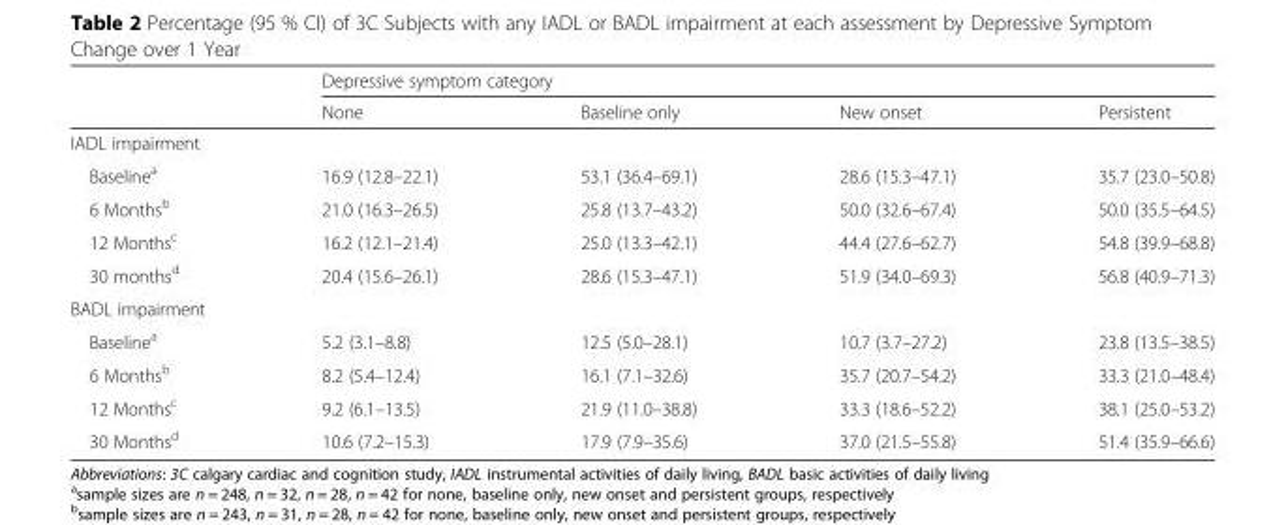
<table><thead><tr><td rowspan="2"></td><td colspan="4">Depressive symptom category</td></tr><tr><td>None</td><td>Baseline only</td><td>New onset</td><td>Persistent</td></tr></thead><tbody><tr><td colspan="5">IADL impairment</td></tr><tr><td>Baseline<sup>a</sup></td><td>16.9 (12.8–22.1)</td><td>53.1 (36.4–69.1)</td><td>28.6 (15.3–47.1)</td><td>35.7 (23.0–50.8)</td></tr><tr><td>6 Months<sup>b</sup></td><td>21.0 (16.3–26.5)</td><td>25.8 (13.7–43.2)</td><td>50.0 (32.6–67.4)</td><td>50.0 (35.5–64.5)</td></tr><tr><td>12 Months<sup>c</sup></td><td>16.2 (12.1–21.4)</td><td>25.0 (13.3–42.1)</td><td>44.4 (27.6–62.7)</td><td>54.8 (39.9–68.8)</td></tr><tr><td>30 months<sup>d</sup></td><td>20.4 (15.6–26.1)</td><td>28.6 (15.3–47.1)</td><td>51.9 (34.0–69.3)</td><td>56.8 (40.9–71.3)</td></tr><tr><td colspan="5">BADL impairment</td></tr><tr><td>Baseline<sup>a</sup></td><td>5.2 (3.1–8.8)</td><td>12.5 (5.0–28.1)</td><td>10.7 (3.7–27.2)</td><td>23.8 (13.5–38.5)</td></tr><tr><td>6 Months<sup>b</sup></td><td>8.2 (5.4–12.4)</td><td>16.1 (7.1–32.6)</td><td>35.7 (20.7–54.2)</td><td>33.3 (21.0–48.4)</td></tr><tr><td>12 Months<sup>c</sup></td><td>9.2 (6.1–13.5)</td><td>21.9 (11.0–38.8)</td><td>33.3 (18.6–52.2)</td><td>38.1 (25.0–53.2)</td></tr><tr><td>30 Months<sup>d</sup></td><td>10.6 (7.2–15.3)</td><td>17.9 (7.9–35.6)</td><td>37.0 (21.5–55.8)</td><td>51.4 (35.9–66.6)</td></tr></tbody></table>